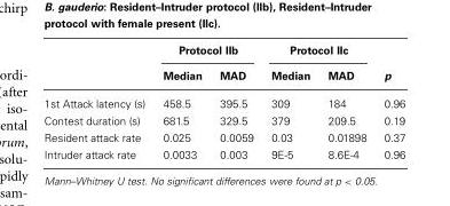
<table><thead><tr><td rowspan="2"></td><td colspan="2">Protocol IIb</td><td colspan="2">Protocol IIc</td><td rowspan="2">p</td></tr><tr><td>Median</td><td>MAD</td><td>Median</td><td>MAD</td></tr></thead><tbody><tr><td>1st Attack latency (s)</td><td>458.5</td><td>395.5</td><td>309</td><td>184</td><td>0.96</td></tr><tr><td>Contest duration (s)</td><td>681.5</td><td>329.5</td><td>379</td><td>209.5</td><td>0.19</td></tr><tr><td>Resident attack rate</td><td>0.025</td><td>0.0059</td><td>0.03</td><td>0.01898</td><td>0.37</td></tr><tr><td>Intruder attack rate</td><td>0.0033</td><td>0.003</td><td>9E-5</td><td>8.6E-4</td><td>0.96</td></tr></tbody></table>